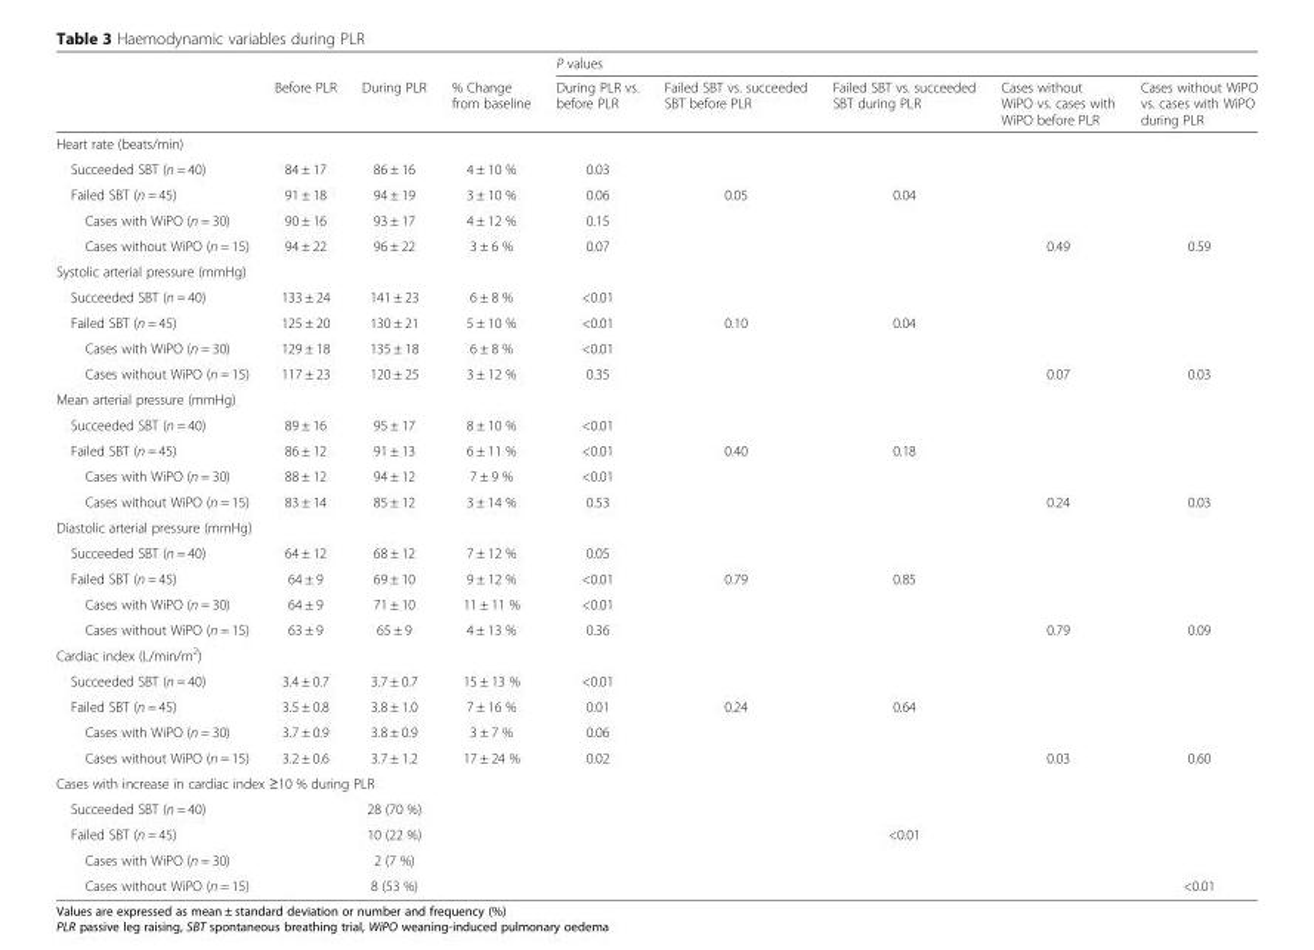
<table><thead><tr><td rowspan="2"></td><td rowspan="2">Before PLR</td><td rowspan="2">During PLR</td><td rowspan="2">% Change from baseline</td><td colspan="5">P values</td></tr><tr><td>During PLR vs. before PLR</td><td>Failed SBT vs. succeeded SBT before PLR</td><td>Failed SBT vs. succeeded SBT during PLR</td><td>Cases without WiPO vs. cases with WiPO before PLR</td><td>Cases without WiPO vs. cases with WiPO during PLR</td></tr></thead><tbody><tr><td colspan="9">Heart rate (beats/min)</td></tr><tr><td>Succeeded SBT (n = 40)</td><td>84 ± 17</td><td>86 ± 16</td><td>4 ± 10 %</td><td>0.03</td><td></td><td></td><td></td><td></td></tr><tr><td>Failed SBT (n = 45)</td><td>91 ± 18</td><td>94 ± 19</td><td>3 ± 10 %</td><td>0.06</td><td>0.05</td><td>0.04</td><td></td><td></td></tr><tr><td>Cases with WiPO (n = 30)</td><td>90 ± 16</td><td>93 ± 17</td><td>4 ± 12 %</td><td>0.15</td><td></td><td></td><td></td><td></td></tr><tr><td>Cases without WiPO (n = 15)</td><td>94 ± 22</td><td>96 ± 22</td><td>3 ± 6 %</td><td>0.07</td><td></td><td></td><td>0.49</td><td>0.59</td></tr><tr><td colspan="9">Systolic arterial pressure (mmHg)</td></tr><tr><td>Succeeded SBT (n = 40)</td><td>133 ± 24</td><td>141 ± 23</td><td>6 ± 8 %</td><td>&lt;0.01</td><td></td><td></td><td></td><td></td></tr><tr><td>Failed SBT (n = 45)</td><td>125 ± 20</td><td>130 ± 21</td><td>5 ± 10 %</td><td>&lt;0.01</td><td>0.10</td><td>0.04</td><td></td><td></td></tr><tr><td>Cases with WiPO (n = 30)</td><td>129 ± 18</td><td>135 ± 18</td><td>6 ± 8 %</td><td>&lt;0.01</td><td></td><td></td><td></td><td></td></tr><tr><td>Cases without WiPO (n = 15)</td><td>117 ± 23</td><td>120 ± 25</td><td>3 ± 12 %</td><td>0.35</td><td></td><td></td><td>0.07</td><td>0.03</td></tr><tr><td colspan="9">Mean arterial pressure (mmHg)</td></tr><tr><td>Succeeded SBT (n = 40)</td><td>89 ± 16</td><td>95 ± 17</td><td>8 ± 10 %</td><td>&lt;0.01</td><td></td><td></td><td></td><td></td></tr><tr><td>Failed SBT (n = 45)</td><td>86 ± 12</td><td>91 ± 13</td><td>6 ± 11 %</td><td>&lt;0.01</td><td>0.40</td><td>0.18</td><td></td><td></td></tr><tr><td>Cases with WiPO (n = 30)</td><td>88 ± 12</td><td>94 ± 12</td><td>7 ± 9 %</td><td>&lt;0.01</td><td></td><td></td><td></td><td></td></tr><tr><td>Cases without WiPO (n = 15)</td><td>83 ± 14</td><td>85 ± 12</td><td>3 ± 14 %</td><td>0.53</td><td></td><td></td><td>0.24</td><td>0.03</td></tr><tr><td colspan="9">Diastolic arterial pressure (mmHg)</td></tr><tr><td>Succeeded SBT (n = 40)</td><td>64 ± 12</td><td>68 ± 12</td><td>7 ± 12 %</td><td>0.05</td><td></td><td></td><td></td><td></td></tr><tr><td>Failed SBT (n = 45)</td><td>64 ± 9</td><td>69 ± 10</td><td>9 ± 12 %</td><td>&lt;0.01</td><td>0.79</td><td>0.85</td><td></td><td></td></tr><tr><td>Cases with WiPO (n = 30)</td><td>64 ± 9</td><td>71 ± 10</td><td>11 ± 11 %</td><td>&lt;0.01</td><td></td><td></td><td></td><td></td></tr><tr><td>Cases without WiPO (n = 15)</td><td>63 ± 9</td><td>65 ± 9</td><td>4 ± 13 %</td><td>0.36</td><td></td><td></td><td>0.79</td><td>0.09</td></tr><tr><td colspan="9">Cardiac index (L/min/m<sup>2</sup>)</td></tr><tr><td>Succeeded SBT (n = 40)</td><td>3.4 ± 0.7</td><td>3.7 ± 0.7</td><td>15 ± 13 %</td><td>&lt;0.01</td><td></td><td></td><td></td><td></td></tr><tr><td>Failed SBT (n = 45)</td><td>3.5 ± 0.8</td><td>3.8 ± 1.0</td><td>7 ± 16 %</td><td>0.01</td><td>0.24</td><td>0.64</td><td></td><td></td></tr><tr><td>Cases with WiPO (n = 30)</td><td>3.7 ± 0.9</td><td>3.8 ± 0.9</td><td>3 ± 7 %</td><td>0.06</td><td></td><td></td><td></td><td></td></tr><tr><td>Cases without WiPO (n = 15)</td><td>3.2 ± 0.6</td><td>3.7 ± 1.2</td><td>17 ± 24 %</td><td>0.02</td><td></td><td></td><td>0.03</td><td>0.60</td></tr><tr><td colspan="9">Cases with increase in cardiac index ≥10 % during PLR</td></tr><tr><td>Succeeded SBT (n = 40)</td><td></td><td>28 (70 %)</td><td></td><td></td><td></td><td></td><td></td><td></td></tr><tr><td>Failed SBT (n = 45)</td><td></td><td>10 (22 %)</td><td></td><td></td><td></td><td>&lt;0.01</td><td></td><td></td></tr><tr><td>Cases with WiPO (n = 30)</td><td></td><td>2 (7 %)</td><td></td><td></td><td></td><td></td><td></td><td></td></tr><tr><td>Cases without WiPO (n = 15)</td><td></td><td>8 (53 %)</td><td></td><td></td><td></td><td></td><td></td><td>&lt;0.01</td></tr></tbody></table>